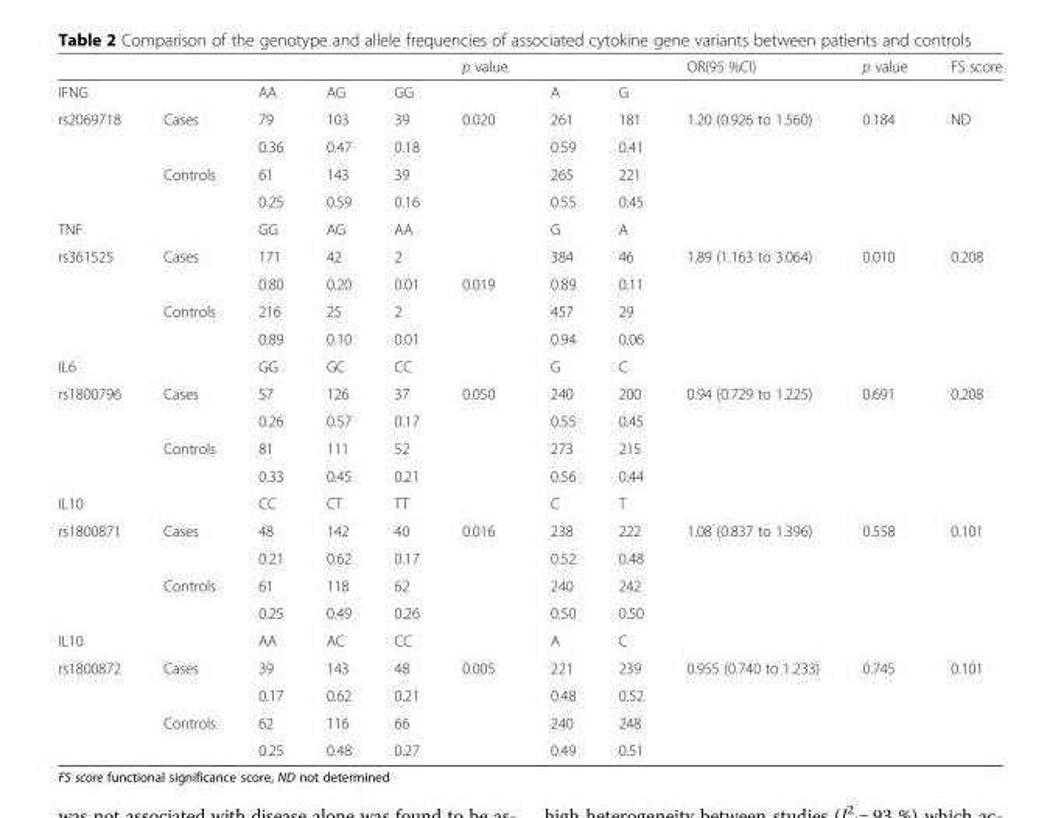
<table><thead><tr><td></td><td></td><td></td><td></td><td></td><td>p value</td><td></td><td></td><td>OR(95 %CI)</td><td>p value</td><td>FS score</td></tr></thead><tbody><tr><td>IFNG</td><td></td><td>AA</td><td>AG</td><td>GG</td><td></td><td>A</td><td>G</td><td></td><td></td><td></td></tr><tr><td rowspan="4">rs2069718</td><td rowspan="2">Cases</td><td>79</td><td>103</td><td>39</td><td rowspan="4">0.020</td><td>261</td><td>181</td><td rowspan="4">1.20 (0.926 to 1.560)</td><td rowspan="4">0.184</td><td rowspan="4">ND</td></tr><tr><td>0.36</td><td>0.47</td><td>0.18</td><td>0.59</td><td>0.41</td></tr><tr><td rowspan="2">Controls</td><td>61</td><td>143</td><td>39</td><td>265</td><td>221</td></tr><tr><td>0.25</td><td>0.59</td><td>0.16</td><td>0.55</td><td>0.45</td></tr><tr><td>TNF</td><td></td><td>GG</td><td>AG</td><td>AA</td><td></td><td>G</td><td>A</td><td></td><td></td><td></td></tr><tr><td rowspan="4">rs361525</td><td rowspan="2">Cases</td><td>171</td><td>42</td><td>2</td><td></td><td>384</td><td>46</td><td rowspan="4">1.89 (1.163 to 3.064)</td><td rowspan="4">0.010</td><td rowspan="4">0.208</td></tr><tr><td>0.80</td><td>0.20</td><td>0.01</td><td>0.019</td><td>0.89</td><td>0.11</td></tr><tr><td rowspan="2">Controls</td><td>216</td><td>25</td><td>2</td><td></td><td>457</td><td>29</td></tr><tr><td>0.89</td><td>0.10</td><td>0.01</td><td></td><td>0.94</td><td>0.06</td></tr><tr><td>IL6</td><td></td><td>GG</td><td>GC</td><td>CC</td><td></td><td>G</td><td>C</td><td></td><td></td><td></td></tr><tr><td rowspan="4">rs1800796</td><td rowspan="2">Cases</td><td>57</td><td>126</td><td>37</td><td rowspan="4">0.050</td><td>240</td><td>200</td><td rowspan="4">0.94 (0.729 to 1.225)</td><td rowspan="4">0.691</td><td rowspan="4">0.208</td></tr><tr><td>0.26</td><td>0.57</td><td>0.17</td><td>0.55</td><td>0.45</td></tr><tr><td rowspan="2">Controls</td><td>81</td><td>111</td><td>52</td><td>273</td><td>215</td></tr><tr><td>0.33</td><td>0.45</td><td>0.21</td><td>0.56</td><td>0.44</td></tr><tr><td>IL10</td><td></td><td>CC</td><td>CT</td><td>TT</td><td></td><td>C</td><td>T</td><td></td><td></td><td></td></tr><tr><td rowspan="4">rs1800871</td><td rowspan="2">Cases</td><td>48</td><td>142</td><td>40</td><td rowspan="4">0.016</td><td>238</td><td>222</td><td rowspan="4">1.08 (0.837 to 1.396)</td><td rowspan="4">0.558</td><td rowspan="4">0.101</td></tr><tr><td>0.21</td><td>0.62</td><td>0.17</td><td>0.52</td><td>0.48</td></tr><tr><td rowspan="2">Controls</td><td>61</td><td>118</td><td>62</td><td>240</td><td>242</td></tr><tr><td>0.25</td><td>0.49</td><td>0.26</td><td>0.50</td><td>0.50</td></tr><tr><td>IL10</td><td></td><td>AA</td><td>AC</td><td>CC</td><td></td><td>A</td><td>C</td><td></td><td></td><td></td></tr><tr><td rowspan="4">rs1800872</td><td rowspan="2">Cases</td><td>39</td><td>143</td><td>48</td><td rowspan="4">0.005</td><td>221</td><td>239</td><td rowspan="4">0.955 (0.740 to 1.233)</td><td rowspan="4">0.745</td><td rowspan="4">0.101</td></tr><tr><td>0.17</td><td>0.62</td><td>0.21</td><td>0.48</td><td>0.52</td></tr><tr><td rowspan="2">Controls</td><td>62</td><td>116</td><td>66</td><td>240</td><td>248</td></tr><tr><td>0.25</td><td>0.48</td><td>0.27</td><td>0.49</td><td>0.51</td></tr></tbody></table>